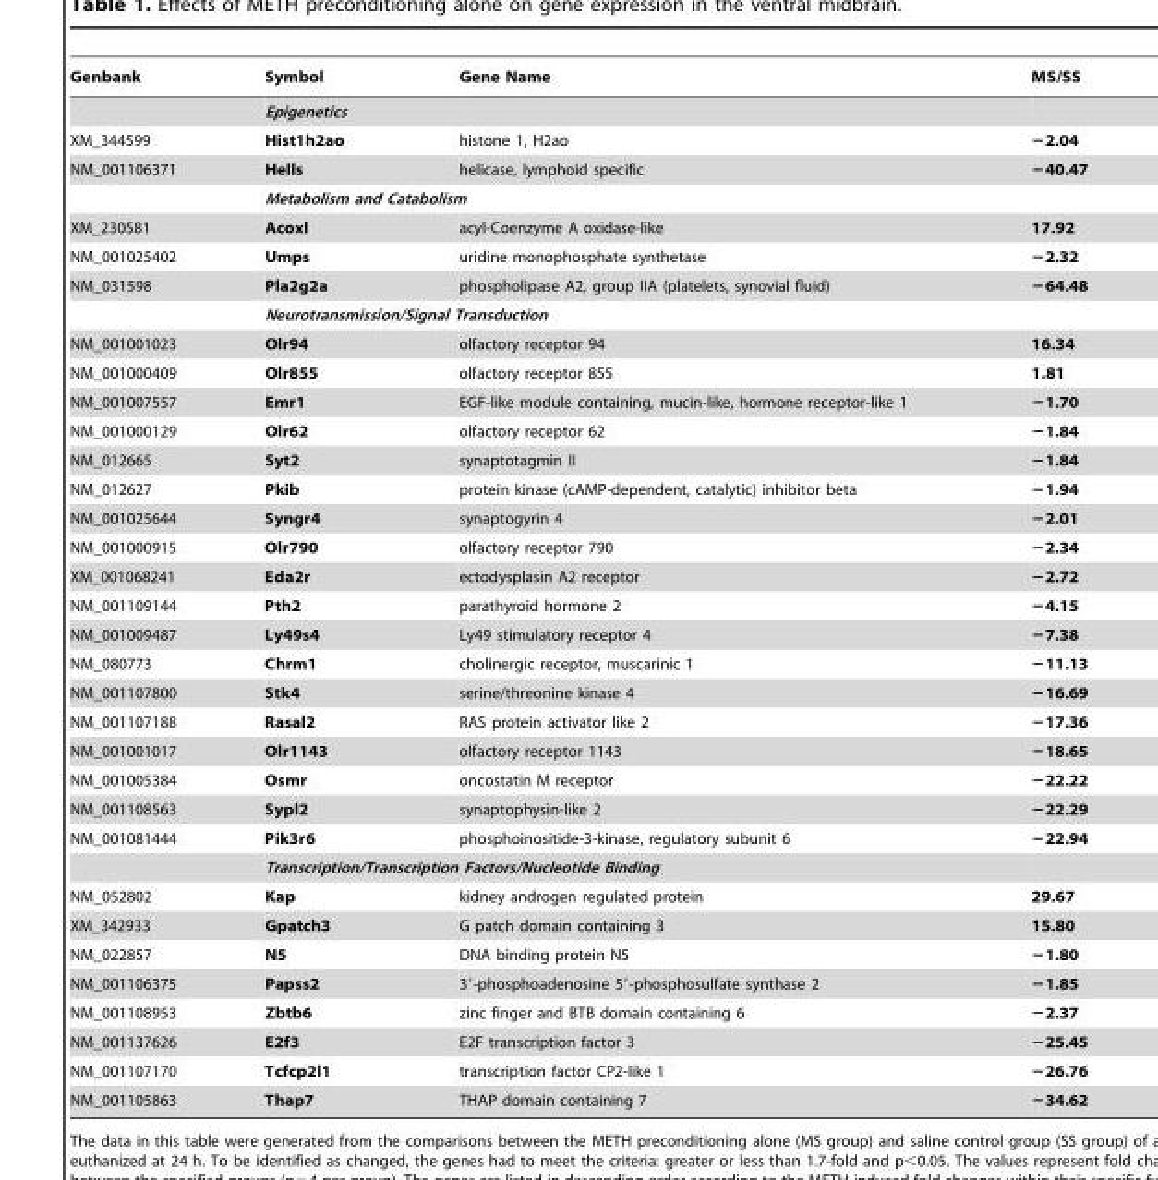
<table><thead><tr><td>Genbank</td><td>Symbol</td><td>Gene Name</td><td>MS/SS</td></tr></thead><tbody><tr><td></td><td colspan="2">Epigenetics</td><td></td></tr><tr><td>XM_344599</td><td>Hist1h2ao</td><td>histone 1, H2ao</td><td>−2.04</td></tr><tr><td rowspan="2">NM_001106371</td><td>Hells</td><td>helicase, lymphoid specific</td><td>−40.47</td></tr><tr><td colspan="2">Metabolism and Catabolism</td><td></td></tr><tr><td>XM_230581</td><td>Acoxl</td><td>acyl-Coenzyme A oxidase-like</td><td>17.92</td></tr><tr><td>NM_001025402</td><td>Umps</td><td>uridine monophosphate synthetase</td><td>−2.32</td></tr><tr><td rowspan="2">NM_031598</td><td>Pla2g2a</td><td>phospholipase A2, group IIA (platelets, synovial fluid)</td><td>−64.48</td></tr><tr><td colspan="2">Neurotransmission/Signal Transduction</td><td></td></tr><tr><td>NM_001001023</td><td>Olr94</td><td>olfactory receptor 94</td><td>16.34</td></tr><tr><td>NM_001000409</td><td>Olr855</td><td>olfactory receptor 855</td><td>1.81</td></tr><tr><td>NM_001007557</td><td>Emr1</td><td>EGF-like module containing, mucin-like, hormone receptor-like 1</td><td>−1.70</td></tr><tr><td>NM_001000129</td><td>Olr62</td><td>olfactory receptor 62</td><td>−1.84</td></tr><tr><td>NM_012665</td><td>Syt2</td><td>synaptotagmin II</td><td>−1.84</td></tr><tr><td>NM_012627</td><td>Pkib</td><td>protein kinase (cAMP-dependent, catalytic) inhibitor beta</td><td>−1.94</td></tr><tr><td>NM_001025644</td><td>Syngr4</td><td>synaptogyrin 4</td><td>−2.01</td></tr><tr><td>NM_001000915</td><td>Olr790</td><td>olfactory receptor 790</td><td>−2.34</td></tr><tr><td>XM_001068241</td><td>Eda2r</td><td>ectodysplasin A2 receptor</td><td>−2.72</td></tr><tr><td>NM_001109144</td><td>Pth2</td><td>parathyroid hormone 2</td><td>−4.15</td></tr><tr><td>NM_001009487</td><td>Ly49s4</td><td>Ly49 stimulatory receptor 4</td><td>−7.38</td></tr><tr><td>NM_080773</td><td>Chrm1</td><td>cholinergic receptor, muscarinic 1</td><td>−11.13</td></tr><tr><td>NM_001107800</td><td>Stk4</td><td>serine/threonine kinase 4</td><td>−16.69</td></tr><tr><td>NM_001107188</td><td>Rasal2</td><td>RAS protein activator like 2</td><td>−17.36</td></tr><tr><td>NM_001001017</td><td>Olr1143</td><td>olfactory receptor 1143</td><td>−18.65</td></tr><tr><td>NM_001005384</td><td>Osmr</td><td>oncostatin M receptor</td><td>−22.22</td></tr><tr><td>NM_001108563</td><td>Sypl2</td><td>synaptophysin-like 2</td><td>−22.29</td></tr><tr><td rowspan="2">NM_001081444</td><td>Pik3r6</td><td>phosphoinositide-3-kinase, regulatory subunit 6</td><td>−22.94</td></tr><tr><td colspan="2">Transcription/Transcription Factors/Nucleotide Binding</td><td></td></tr><tr><td>NM_052802</td><td>Kap</td><td>kidney androgen regulated protein</td><td>29.67</td></tr><tr><td>XM_342933</td><td>Gpatch3</td><td>G patch domain containing 3</td><td>15.80</td></tr><tr><td>NM_022857</td><td>N5</td><td>DNA binding protein N5</td><td>−1.80</td></tr><tr><td>NM_001106375</td><td>Papss2</td><td>3′-phosphoadenosine 5′-phosphosulfate synthase 2</td><td>−1.85</td></tr><tr><td>NM_001108953</td><td>Zbtb6</td><td>zinc finger and BTB domain containing 6</td><td>−2.37</td></tr><tr><td>NM_001137626</td><td>E2f3</td><td>E2F transcription factor 3</td><td>−25.45</td></tr><tr><td>NM_001107170</td><td>Tcfcp2l1</td><td>transcription factor CP2-like 1</td><td>−26.76</td></tr><tr><td>NM_001105863</td><td>Thap7</td><td>THAP domain containing 7</td><td>−34.62</td></tr></tbody></table>